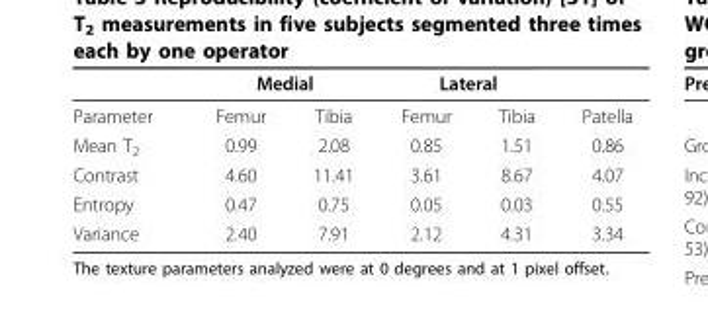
<table><thead><tr><td rowspan="2">Parameter</td><td colspan="2">Medial</td><td colspan="2">Lateral</td><td rowspan="2">Patella</td></tr><tr><td>Femur</td><td>Tibia</td><td>Femur</td><td>Tibia</td></tr></thead><tbody><tr><td>Mean T<sub>2</sub></td><td>0.99</td><td>2.08</td><td>0.85</td><td>1.51</td><td>0.86</td></tr><tr><td>Contrast</td><td>4.60</td><td>11.41</td><td>3.61</td><td>8.67</td><td>4.07</td></tr><tr><td>Entropy</td><td>0.47</td><td>0.75</td><td>0.05</td><td>0.03</td><td>0.55</td></tr><tr><td>Variance</td><td>2.40</td><td>7.91</td><td>2.12</td><td>4.31</td><td>3.34</td></tr></tbody></table>